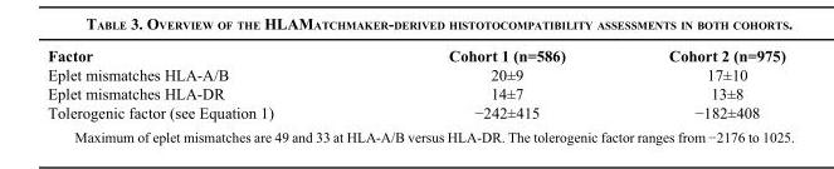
<table><thead><tr><td>Factor</td><td>Cohort 1 (n=586)</td><td>Cohort 2 (n=975)</td></tr></thead><tbody><tr><td>Eplet mismatches HLA-A/B</td><td>20±9</td><td>17±10</td></tr><tr><td>Eplet mismatches HLA-DR</td><td>14±7</td><td>13±8</td></tr><tr><td>Tolerogenic factor (see Equation 1)</td><td>−242±415</td><td>−182±408</td></tr></tbody></table>